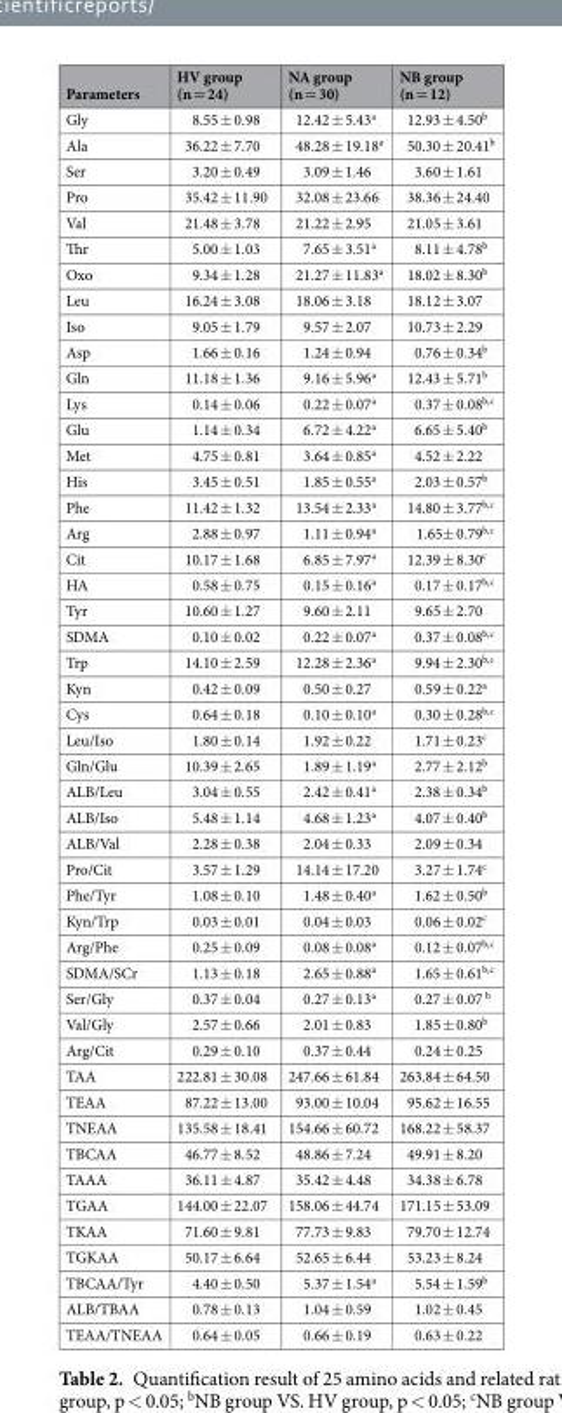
<table><thead><tr><td>Parameters</td><td>HV group (n = 24)</td><td>NA group (n = 30)</td><td>NB group (n = 12)</td></tr></thead><tbody><tr><td>Gly</td><td>8.55 ± 0.98</td><td>12.42 ± 5.43<sup>a</sup></td><td>12.93 ± 4.50<sup>b</sup></td></tr><tr><td>Ala</td><td>36.22 ± 7.70</td><td>48.28 ± 19.18<sup>a</sup></td><td>50.30 ± 20.41<sup>b</sup></td></tr><tr><td>Ser</td><td>3.20 ± 0.49</td><td>3.09 ± 1.46</td><td>3.60 ± 1.61</td></tr><tr><td>Pro</td><td>35.42 ± 11.90</td><td>32.08 ± 23.66</td><td>38.36 ± 24.40</td></tr><tr><td>Val</td><td>21.48 ± 3.78</td><td>21.22 ± 2.95</td><td>21.05 ± 3.61</td></tr><tr><td>Thr</td><td>5.00 ± 1.03</td><td>7.65 ± 3.51<sup>a</sup></td><td>8.11 ± 4.78<sup>b</sup></td></tr><tr><td>Oxo</td><td>9.34 ± 1.28</td><td>21.27 ± 11.83<sup>a</sup></td><td>18.02 ± 8.30<sup>b</sup></td></tr><tr><td>Leu</td><td>16.24 ± 3.08</td><td>18.06 ± 3.18</td><td>18.12 ± 3.07</td></tr><tr><td>Iso</td><td>9.05 ± 1.79</td><td>9.57 ± 2.07</td><td>10.73 ± 2.29</td></tr><tr><td>Asp</td><td>1.66 ± 0.16</td><td>1.24 ± 0.94</td><td>0.76 ± 0.34<sup>b</sup></td></tr><tr><td>Gln</td><td>11.18 ± 1.36</td><td>9.16 ± 5.96<sup>a</sup></td><td>12.43 ± 5.71<sup>b</sup></td></tr><tr><td>Lys</td><td>0.14 ± 0.06</td><td>0.22 ± 0.07<sup>a</sup></td><td>0.37 ± 0.08<sup>b,c</sup></td></tr><tr><td>Glu</td><td>1.14 ± 0.34</td><td>6.72 ± 4.22<sup>a</sup></td><td>6.65 ± 5.40<sup>b</sup></td></tr><tr><td>Met</td><td>4.75 ± 0.81</td><td>3.64 ± 0.85<sup>a</sup></td><td>4.52 ± 2.22</td></tr><tr><td>His</td><td>3.45 ± 0.51</td><td>1.85 ± 0.55<sup>a</sup></td><td>2.03 ± 0.57<sup>b</sup></td></tr><tr><td>Phe</td><td>11.42 ± 1.32</td><td>13.54 ± 2.33<sup>a</sup></td><td>14.80 ± 3.77<sup>b,c</sup></td></tr><tr><td>Arg</td><td>2.88 ± 0.97</td><td>1.11 ± 0.94<sup>a</sup></td><td>1.65± 0.79<sup>b,c</sup></td></tr><tr><td>Cit</td><td>10.17 ± 1.68</td><td>6.85 ± 7.97<sup>a</sup></td><td>12.39 ± 8.30<sup>c</sup></td></tr><tr><td>HA</td><td>0.58 ± 0.75</td><td>0.15 ± 0.16<sup>a</sup></td><td>0.17 ± 0.17<sup>b,c</sup></td></tr><tr><td>Tyr</td><td>10.60 ± 1.27</td><td>9.60 ± 2.11</td><td>9.65 ± 2.70</td></tr><tr><td>SDMA</td><td>0.10 ± 0.02</td><td>0.22 ± 0.07<sup>a</sup></td><td>0.37 ± 0.08<sup>b,c</sup></td></tr><tr><td>Trp</td><td>14.10 ± 2.59</td><td>12.28 ± 2.36<sup>a</sup></td><td>9.94 ± 2.30<sup>b,c</sup></td></tr><tr><td>Kyn</td><td>0.42 ± 0.09</td><td>0.50 ± 0.27</td><td>0.59 ± 0.22<sup>a</sup></td></tr><tr><td>Cys</td><td>0.64 ± 0.18</td><td>0.10 ± 0.10<sup>a</sup></td><td>0.30 ± 0.28<sup>b,c</sup></td></tr><tr><td>Leu/Iso</td><td>1.80 ± 0.14</td><td>1.92 ± 0.22</td><td>1.71 ± 0.23<sup>c</sup></td></tr><tr><td>Gln/Glu</td><td>10.39 ± 2.65</td><td>1.89 ± 1.19<sup>a</sup></td><td>2.77 ± 2.12<sup>b</sup></td></tr><tr><td>ALB/Leu</td><td>3.04 ± 0.55</td><td>2.42 ± 0.41<sup>a</sup></td><td>2.38 ± 0.34<sup>b</sup></td></tr><tr><td>ALB/Iso</td><td>5.48 ± 1.14</td><td>4.68 ± 1.23<sup>a</sup></td><td>4.07 ± 0.40<sup>b</sup></td></tr><tr><td>ALB/Val</td><td>2.28 ± 0.38</td><td>2.04 ± 0.33</td><td>2.09 ± 0.34</td></tr><tr><td>Pro/Cit</td><td>3.57 ± 1.29</td><td>14.14 ± 17.20</td><td>3.27 ± 1.74<sup>c</sup></td></tr><tr><td>Phe/Tyr</td><td>1.08 ± 0.10</td><td>1.48 ± 0.40<sup>a</sup></td><td>1.62 ± 0.50<sup>b</sup></td></tr><tr><td>Kyn/Trp</td><td>0.03 ± 0.01</td><td>0.04 ± 0.03</td><td>0.06 ± 0.02<sup>c</sup></td></tr><tr><td>Arg/Phe</td><td>0.25 ± 0.09</td><td>0.08 ± 0.08<sup>a</sup></td><td>0.12 ± 0.07<sup>b,c</sup></td></tr><tr><td>SDMA/SCr</td><td>1.13 ± 0.18</td><td>2.65 ± 0.88<sup>a</sup></td><td>1.65 ± 0.61<sup>b,c</sup></td></tr><tr><td>Ser/Gly</td><td>0.37 ± 0.04</td><td>0.27 ± 0.13<sup>a</sup></td><td>0.27 ± 0.07 <sup>b</sup></td></tr><tr><td>Val/Gly</td><td>2.57 ± 0.66</td><td>2.01 ± 0.83</td><td>1.85 ± 0.80<sup>b</sup></td></tr><tr><td>Arg/Cit</td><td>0.29 ± 0.10</td><td>0.37 ± 0.44</td><td>0.24 ± 0.25</td></tr><tr><td>TAA</td><td>222.81 ± 30.08</td><td>247.66 ± 61.84</td><td>263.84 ± 64.50</td></tr><tr><td>TEAA</td><td>87.22 ± 13.00</td><td>93.00 ± 10.04</td><td>95.62 ± 16.55</td></tr><tr><td>TNEAA</td><td>135.58 ± 18.41</td><td>154.66 ± 60.72</td><td>168.22 ± 58.37</td></tr><tr><td>TBCAA</td><td>46.77 ± 8.52</td><td>48.86 ± 7.24</td><td>49.91 ± 8.20</td></tr><tr><td>TAAA</td><td>36.11 ± 4.87</td><td>35.42 ± 4.48</td><td>34.38 ± 6.78</td></tr><tr><td>TGAA</td><td>144.00 ± 22.07</td><td>158.06 ± 44.74</td><td>171.15 ± 53.09</td></tr><tr><td>TKAA</td><td>71.60 ± 9.81</td><td>77.73 ± 9.83</td><td>79.70 ± 12.74</td></tr><tr><td>TGKAA</td><td>50.17 ± 6.64</td><td>52.65 ± 6.44</td><td>53.23 ± 8.24</td></tr><tr><td>TBCAA/Tyr</td><td>4.40 ± 0.50</td><td>5.37 ± 1.54<sup>a</sup></td><td>5.54 ± 1.59<sup>b</sup></td></tr><tr><td>ALB/TBAA</td><td>0.78 ± 0.13</td><td>1.04 ± 0.59</td><td>1.02 ± 0.45</td></tr><tr><td>TEAA/TNEAA</td><td>0.64 ± 0.05</td><td>0.66 ± 0.19</td><td>0.63 ± 0.22</td></tr></tbody></table>